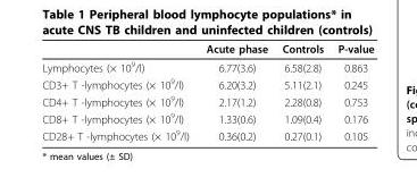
<table><thead><tr><td></td><td>Acute phase</td><td>Controls</td><td>P-value</td></tr></thead><tbody><tr><td>Lymphocytes (× 10<sup>9</sup>/l)</td><td>6.77(3.6)</td><td>6.58(2.8)</td><td>0.863</td></tr><tr><td>CD3+ T -lymphocytes (× 10<sup>9</sup>/l)</td><td>6.20(3.2)</td><td>5.11(2.1)</td><td>0.245</td></tr><tr><td>CD4+ T -lymphocytes (× 10<sup>9</sup>/l)</td><td>2.17(1.2)</td><td>2.28(0.8)</td><td>0.753</td></tr><tr><td>CD8+ T -lymphocytes (× 10<sup>9</sup>/l)</td><td>1.33(0.6)</td><td>1.09(0.4)</td><td>0.176</td></tr><tr><td>CD28+ T -lymphocytes (× 10<sup>9</sup>/l)</td><td>0.36(0.2)</td><td>0.27(0.1)</td><td>0.105</td></tr></tbody></table>